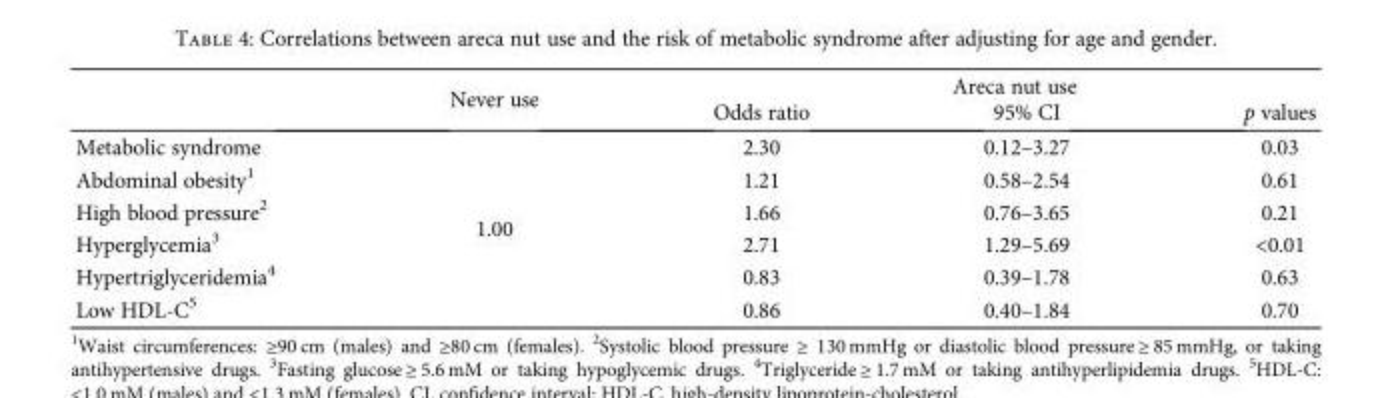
<table><thead><tr><td rowspan="2"></td><td rowspan="2">Never use</td><td colspan="3">Areca nut use</td></tr><tr><td>Odds ratio</td><td>95% CI</td><td>p values</td></tr></thead><tbody><tr><td>Metabolic syndrome</td><td rowspan="6">1.00</td><td>2.30</td><td>0.12–3.27</td><td>0.03</td></tr><tr><td>Abdominal obesity<sup>1</sup></td><td>1.21</td><td>0.58–2.54</td><td>0.61</td></tr><tr><td>High blood pressure<sup>2</sup></td><td>1.66</td><td>0.76–3.65</td><td>0.21</td></tr><tr><td>Hyperglycemia<sup>3</sup></td><td>2.71</td><td>1.29–5.69</td><td>&lt;0.01</td></tr><tr><td>Hypertriglyceridemia<sup>4</sup></td><td>0.83</td><td>0.39–1.78</td><td>0.63</td></tr><tr><td>Low HDL-C<sup>5</sup></td><td>0.86</td><td>0.40–1.84</td><td>0.70</td></tr></tbody></table>